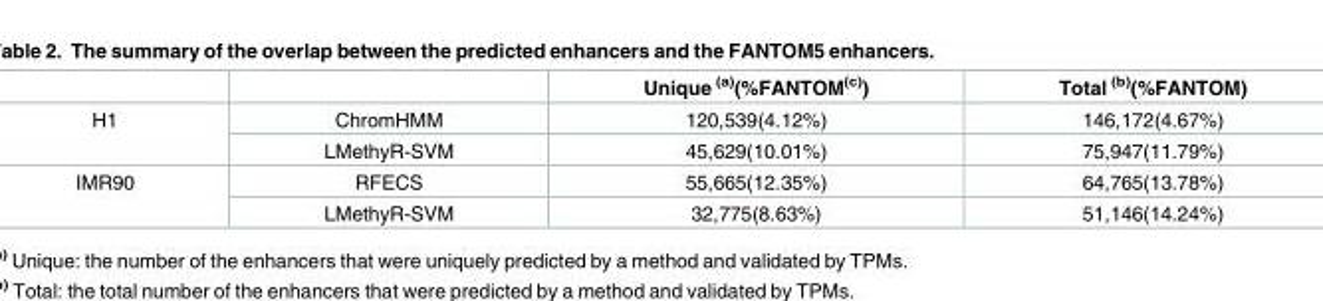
<table><thead><tr><td></td><td></td><td>Unique <sup>(a)</sup>(%FANTOM<sup>(c)</sup>)</td><td>Total <sup>(b)</sup>(%FANTOM)</td></tr></thead><tbody><tr><td rowspan="2">H1</td><td>ChromHMM</td><td>120,539(4.12%)</td><td>146,172(4.67%)</td></tr><tr><td>LMethyR-SVM</td><td>45,629(10.01%)</td><td>75,947(11.79%)</td></tr><tr><td rowspan="2">IMR90</td><td>RFECS</td><td>55,665(12.35%)</td><td>64,765(13.78%)</td></tr><tr><td>LMethyR-SVM</td><td>32,775(8.63%)</td><td>51,146(14.24%)</td></tr></tbody></table>